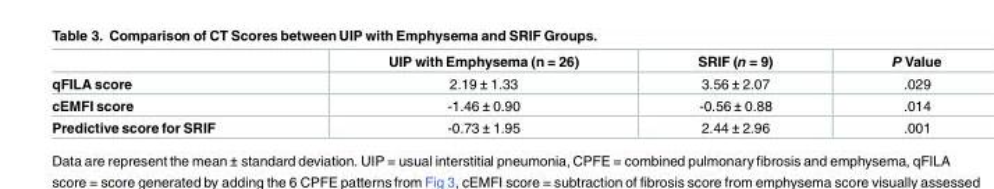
<table><thead><tr><td></td><td>UIP with Emphysema (n = 26)</td><td>SRIF (n = 9)</td><td>P Value</td></tr></thead><tbody><tr><td>qFILA score</td><td>2.19 ± 1.33</td><td>3.56 ± 2.07</td><td>.029</td></tr><tr><td>cEMFI score</td><td>-1.46 ± 0.90</td><td>-0.56 ± 0.88</td><td>.014</td></tr><tr><td>Predictive score for SRIF</td><td>-0.73 ± 1.95</td><td>2.44 ± 2.96</td><td>.001</td></tr></tbody></table>